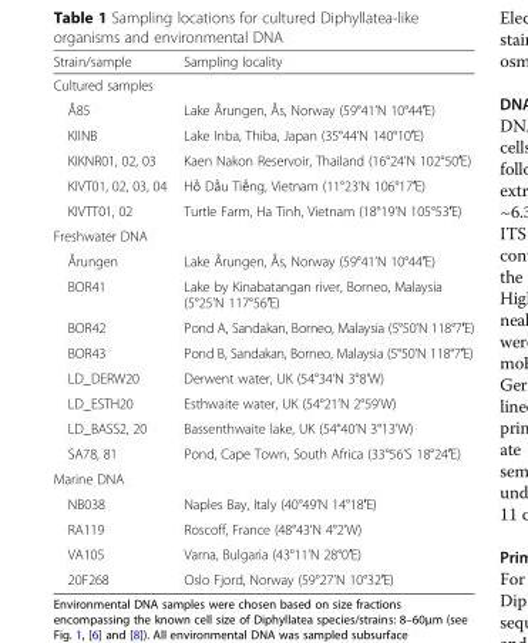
<table><thead><tr><td>Strain/sample</td><td>Sampling locality</td></tr></thead><tbody><tr><td colspan="2">Cultured samples</td></tr><tr><td>Å85</td><td>Lake Årungen, Ås, Norway (59°41’N 10°44′E)</td></tr><tr><td>KIINB</td><td>Lake Inba, Thiba, Japan (35°44’N 140°10′E)</td></tr><tr><td>KIKNR01, 02, 03</td><td>Kaen Nakon Reservoir, Thailand (16°24’N 102°50′E)</td></tr><tr><td>KIVT01, 02, 03, 04</td><td>Hồ Dầu Tiếng, Vietnam (11°23’N 106°17′E)</td></tr><tr><td>KIVTT01, 02</td><td>Turtle Farm, Ha Tinh, Vietnam (18°19’N 105°53′E)</td></tr><tr><td colspan="2">Freshwater DNA</td></tr><tr><td>Årungen</td><td>Lake Årungen, Ås, Norway (59°41’N 10°44′E)</td></tr><tr><td>BOR41</td><td>Lake by Kinabatangan river, Borneo, Malaysia (5°25’N 117°56′E)</td></tr><tr><td>BOR42</td><td>Pond A, Sandakan, Borneo, Malaysia (5°50’N 118°7′E)</td></tr><tr><td>BOR43</td><td>Pond B, Sandakan, Borneo, Malaysia (5°50’N 118°7′E)</td></tr><tr><td>LD_DERW20</td><td>Derwent water, UK (54°34’N 3°8’W)</td></tr><tr><td>LD_ESTH20</td><td>Esthwaite water, UK (54°21’N 2°59’W)</td></tr><tr><td>LD_BASS2, 20</td><td>Bassenthwaite lake, UK (54°40’N 3°13’W)</td></tr><tr><td>SA78, 81</td><td>Pond, Cape Town, South Africa (33°56’S 18°24′E)</td></tr><tr><td colspan="2">Marine DNA</td></tr><tr><td>NB038</td><td>Naples Bay, Italy (40°49’N 14°18′E)</td></tr><tr><td>RA119</td><td>Roscoff, France (48°43’N 4°2’W)</td></tr><tr><td>VA105</td><td>Varna, Bulgaria (43°11’N 28°0′E)</td></tr><tr><td>20F268</td><td>Oslo Fjord, Norway (59°27’N 10°32′E)</td></tr></tbody></table>